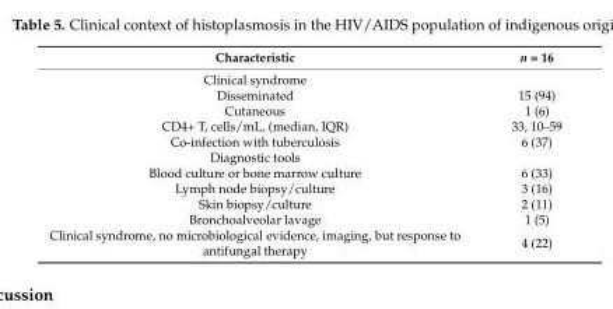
<table><thead><tr><td>Characteristic</td><td>n = 16</td></tr></thead><tbody><tr><td colspan="2">Clinical syndrome</td></tr><tr><td>Disseminated</td><td>15 (94)</td></tr><tr><td>Cutaneous</td><td>1 (6)</td></tr><tr><td>CD4+ T, cells/mL, (median, IQR)</td><td>33, 10–59</td></tr><tr><td>Co-infection with tuberculosis</td><td>6 (37)</td></tr><tr><td colspan="2">Diagnostic tools</td></tr><tr><td>Blood culture or bone marrow culture</td><td>6 (33)</td></tr><tr><td>Lymph node biopsy/culture</td><td>3 (16)</td></tr><tr><td>Skin biopsy/culture</td><td>2 (11)</td></tr><tr><td>Bronchoalveolar lavage</td><td>1 (5)</td></tr><tr><td>Clinical syndrome, no microbiological evidence, imaging, but response to antifungal therapy</td><td>4 (22)</td></tr></tbody></table>